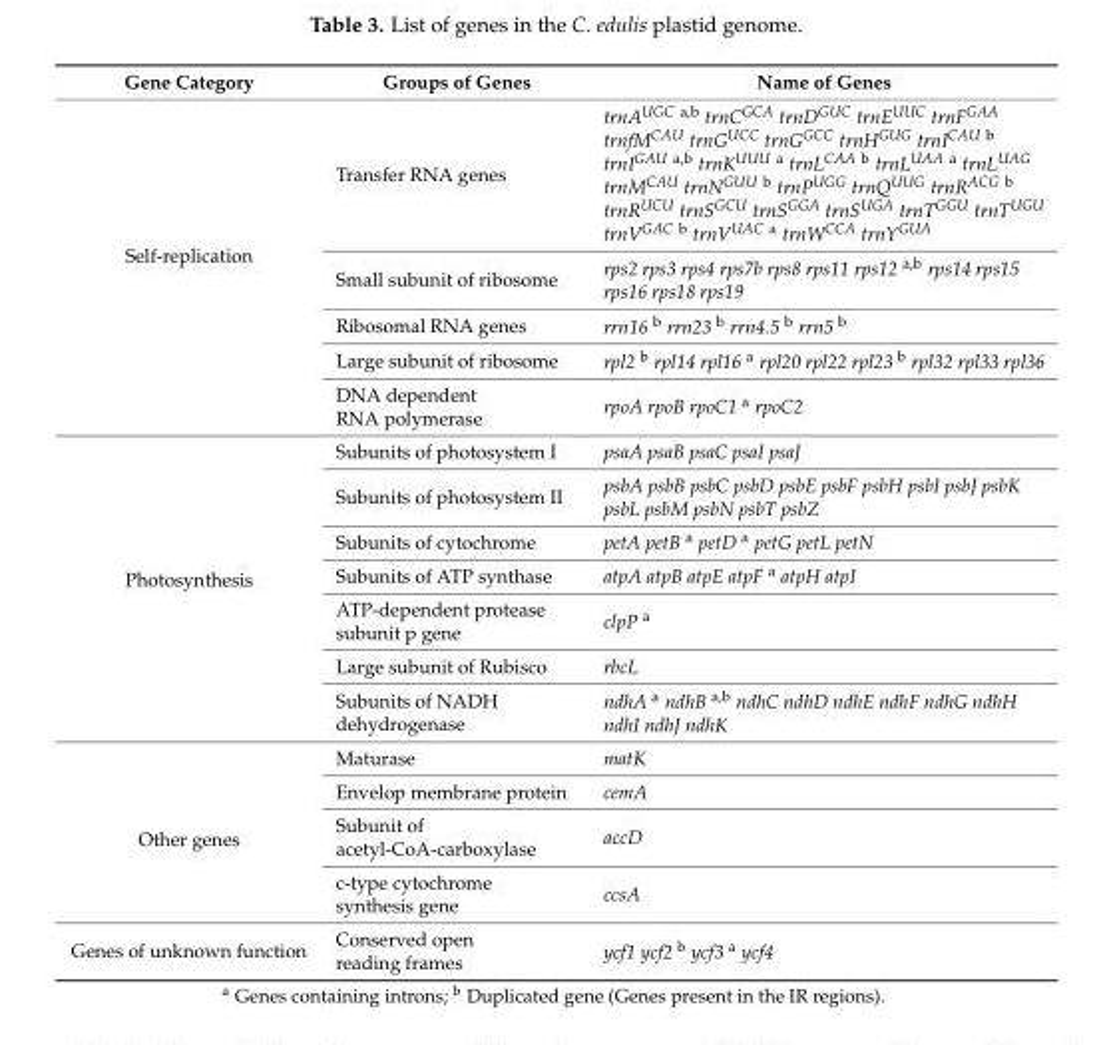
<table><thead><tr><td>Gene Category</td><td>Groups of Genes</td><td>Name of Genes</td></tr></thead><tbody><tr><td rowspan="5">Self-replication</td><td>Transfer RNA genes</td><td>trnAUGC a,b trnCGCA trnDGUC trnEUUC trnFGAA trnfMCAU trnGUCC trnGGCC trnHGUG trnICAU b trnIGAU a,b trnKUUU a trnLCAA b trnLUAA a trnLUAG trnMCAU trnNGUU b trnPUGG trnQUUG trnRACG b trnRUCU trnSGCU trnSGGA trnSUGA trnTGGU trnTUGU trnVGAC b trnVUAC a trnWCCA trnYGUA</td></tr><tr><td>Small subunit of ribosome</td><td>rps2 rps3 rps4 rps7b rps8 rps11 rps12 <sup>a,b</sup> rps14 rps15 rps16 rps18 rps19</td></tr><tr><td>Ribosomal RNA genes</td><td>rrn16 <sup>b</sup> rrn23 <sup>b</sup> rrn4.5 <sup>b</sup> rrn5 <sup>b</sup></td></tr><tr><td>Large subunit of ribosome</td><td>rpl2 <sup>b</sup> rpl14 rpl16 <sup>a</sup> rpl20 rpl22 rpl23 <sup>b</sup> rpl32 rpl33 rpl36</td></tr><tr><td>DNA dependent RNA polymerase</td><td>rpoA rpoB rpoC1 <sup>a</sup> rpoC2</td></tr><tr><td rowspan="7">Photosynthesis</td><td>Subunits of photosystem I</td><td>psaA psaB psaC psaI psaJ</td></tr><tr><td>Subunits of photosystem II</td><td>psbA psbB psbC psbD psbE psbF psbH psbI psbJ psbK psbL psbM psbN psbT psbZ</td></tr><tr><td>Subunits of cytochrome</td><td>petA petB <sup>a</sup> petD <sup>a</sup> petG petL petN</td></tr><tr><td>Subunits of ATP synthase</td><td>atpA atpB atpE atpF <sup>a</sup> atpH atpI</td></tr><tr><td>ATP-dependent protease subunit p gene</td><td>clpP <sup>a</sup></td></tr><tr><td>Large subunit of Rubisco</td><td>rbcL</td></tr><tr><td>Subunits of NADH dehydrogenase</td><td>ndhA <sup>a</sup> ndhB <sup>a,b</sup> ndhC ndhD ndhE ndhF ndhG ndhH ndhI ndhJ ndhK</td></tr><tr><td rowspan="4">Other genes</td><td>Maturase</td><td>matK</td></tr><tr><td>Envelop membrane protein</td><td>cemA</td></tr><tr><td>Subunit of acetyl-CoA-carboxylase</td><td>accD</td></tr><tr><td>c-type cytochrome synthesis gene</td><td>ccsA</td></tr><tr><td>Genes of unknown function</td><td>Conserved open reading frames</td><td>ycf1 ycf2 <sup>b</sup> ycf3 <sup>a</sup> ycf4</td></tr></tbody></table>